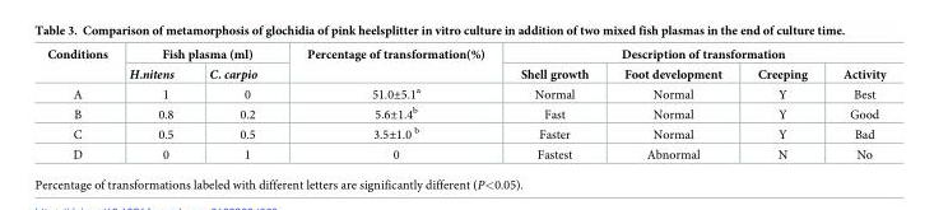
<table><thead><tr><td rowspan="2">Conditions</td><td colspan="2">Fish plasma (ml)</td><td rowspan="2">Percentage of transformation(%)</td><td colspan="4">Description of transformation</td></tr><tr><td>H.nitens</td><td>C. carpio</td><td>Shell growth</td><td>Foot development</td><td>Creeping</td><td>Activity</td></tr></thead><tbody><tr><td>A</td><td>1</td><td>0</td><td>51.0±5.1<sup>a</sup></td><td>Normal</td><td>Normal</td><td>Y</td><td>Best</td></tr><tr><td>B</td><td>0.8</td><td>0.2</td><td>5.6±1.4<sup>b</sup></td><td>Fast</td><td>Normal</td><td>Y</td><td>Good</td></tr><tr><td>C</td><td>0.5</td><td>0.5</td><td>3.5±1.0 <sup>b</sup></td><td>Faster</td><td>Normal</td><td>Y</td><td>Bad</td></tr><tr><td>D</td><td>0</td><td>1</td><td>0</td><td>Fastest</td><td>Abnormal</td><td>N</td><td>No</td></tr></tbody></table>